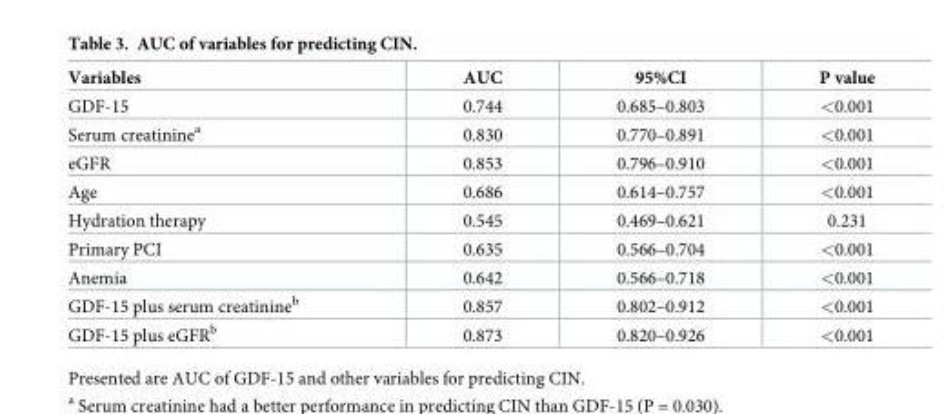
<table><thead><tr><td>Variables</td><td>AUC</td><td>95%CI</td><td>P value</td></tr></thead><tbody><tr><td>GDF-15</td><td>0.744</td><td>0.685–0.803</td><td>&lt;0.001</td></tr><tr><td>Serum creatinine<sup>a</sup></td><td>0.830</td><td>0.770–0.891</td><td>&lt;0.001</td></tr><tr><td>eGFR</td><td>0.853</td><td>0.796–0.910</td><td>&lt;0.001</td></tr><tr><td>Age</td><td>0.686</td><td>0.614–0.757</td><td>&lt;0.001</td></tr><tr><td>Hydration therapy</td><td>0.545</td><td>0.469–0.621</td><td>0.231</td></tr><tr><td>Primary PCI</td><td>0.635</td><td>0.566–0.704</td><td>&lt;0.001</td></tr><tr><td>Anemia</td><td>0.642</td><td>0.566–0.718</td><td>&lt;0.001</td></tr><tr><td>GDF-15 plus serum creatinine<sup>b</sup></td><td>0.857</td><td>0.802–0.912</td><td>&lt;0.001</td></tr><tr><td>GDF-15 plus eGFR<sup>b</sup></td><td>0.873</td><td>0.820–0.926</td><td>&lt;0.001</td></tr></tbody></table>